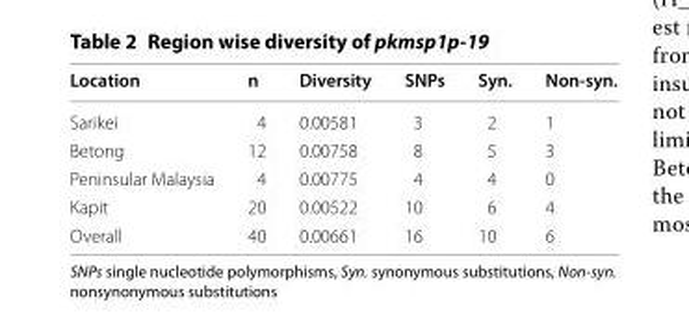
<table><thead><tr><td>Location</td><td>n</td><td>Diversity</td><td>SNPs</td><td>Syn.</td><td>Non‑syn.</td></tr></thead><tbody><tr><td>Sarikei</td><td>4</td><td>0.00581</td><td>3</td><td>2</td><td>1</td></tr><tr><td>Betong</td><td>12</td><td>0.00758</td><td>8</td><td>5</td><td>3</td></tr><tr><td>Peninsular Malaysia</td><td>4</td><td>0.00775</td><td>4</td><td>4</td><td>0</td></tr><tr><td>Kapit</td><td>20</td><td>0.00522</td><td>10</td><td>6</td><td>4</td></tr><tr><td>Overall</td><td>40</td><td>0.00661</td><td>16</td><td>10</td><td>6</td></tr></tbody></table>